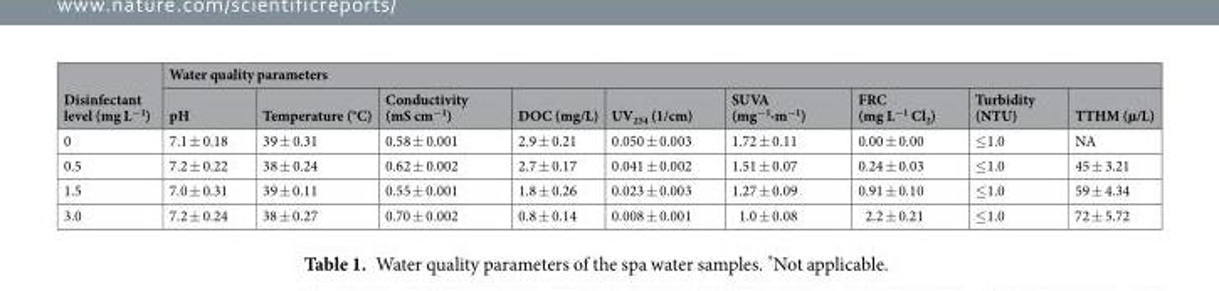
<table><thead><tr><td rowspan="2">Disinfectant level (mg L<sup>−1</sup>)</td><td colspan="9">Water quality parameters</td></tr><tr><td>pH</td><td>Temperature (°C)</td><td>Conductivity (mS cm<sup>−1</sup>)</td><td>DOC (mg/L)</td><td>UV<sub>254</sub> (1/cm)</td><td>SUVA (mg<sup>−1</sup>·m<sup>−1</sup>)</td><td>FRC (mg L<sup>−1</sup> Cl<sub>2</sub>)</td><td>Turbidity (NTU)</td><td>TTHM (µ/L)</td></tr></thead><tbody><tr><td>0</td><td>7.1 ± 0.18</td><td>39 ± 0.31</td><td>0.58 ± 0.001</td><td>2.9 ± 0.21</td><td>0.050 ± 0.003</td><td>1.72 ± 0.11</td><td>0.00 ± 0.00</td><td>≤1.0</td><td>NA</td></tr><tr><td>0.5</td><td>7.2 ± 0.22</td><td>38 ± 0.24</td><td>0.62 ± 0.002</td><td>2.7 ± 0.17</td><td>0.041 ± 0.002</td><td>1.51 ± 0.07</td><td>0.24 ± 0.03</td><td>≤1.0</td><td>45 ± 3.21</td></tr><tr><td>1.5</td><td>7.0 ± 0.31</td><td>39 ± 0.11</td><td>0.55 ± 0.001</td><td>1.8 ± 0.26</td><td>0.023 ± 0.003</td><td>1.27 ± 0.09</td><td>0.91 ± 0.10</td><td>≤1.0</td><td>59 ± 4.34</td></tr><tr><td>3.0</td><td>7.2 ± 0.24</td><td>38 ± 0.27</td><td>0.70 ± 0.002</td><td>0.8 ± 0.14</td><td>0.008 ± 0.001</td><td>1.0 ± 0.08</td><td>2.2 ± 0.21</td><td>≤1.0</td><td>72 ± 5.72</td></tr></tbody></table>